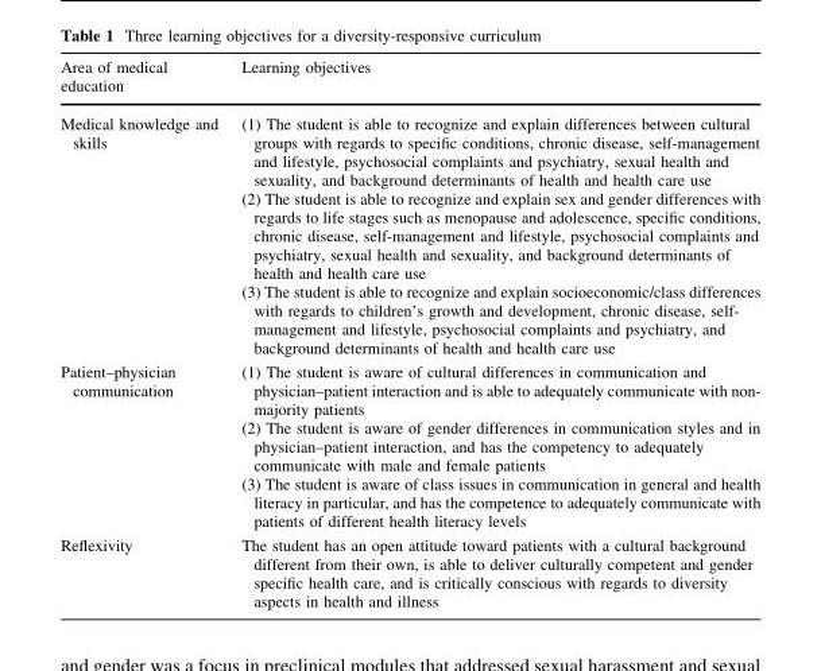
<table><thead><tr><td>Area of medical education</td><td>Learning objectives</td></tr></thead><tbody><tr><td>Medical knowledge and skills</td><td>(1) The student is able to recognize and explain differences between cultural groups with regards to specific conditions, chronic disease, self-management and lifestyle, psychosocial complaints and psychiatry, sexual health and sexuality, and background determinants of health and health care use (2) The student is able to recognize and explain sex and gender differences with regards to life stages such as menopause and adolescence, specific conditions, chronic disease, self-management and lifestyle, psychosocial complaints and psychiatry, sexual health and sexuality, and background determinants of health and health care use (3) The student is able to recognize and explain socioeconomic/class differences with regards to children’s growth and development, chronic disease, self- management and lifestyle, psychosocial complaints and psychiatry, and background determinants of health and health care use</td></tr><tr><td>Patient–physician communication</td><td>(1) The student is aware of cultural differences in communication and physician–patient interaction and is able to adequately communicate with non- majority patients (2) The student is aware of gender differences in communication styles and in physician–patient interaction, and has the competency to adequately communicate with male and female patients (3) The student is aware of class issues in communication in general and health literacy in particular, and has the competence to adequately communicate with patients of different health literacy levels</td></tr><tr><td>Reflexivity</td><td>The student has an open attitude toward patients with a cultural background different from their own, is able to deliver culturally competent and gender specific health care, and is critically conscious with regards to diversity aspects in health and illness</td></tr></tbody></table>